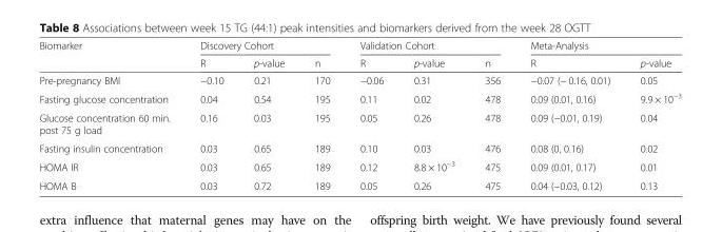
<table><thead><tr><td rowspan="2">Biomarker</td><td colspan="3">Discovery Cohort</td><td colspan="3">Validation Cohort</td><td colspan="2">Meta-Analysis</td></tr><tr><td>R</td><td>p-value</td><td>n</td><td>R</td><td>p-value</td><td>n</td><td>R</td><td>p-value</td></tr></thead><tbody><tr><td>Pre-pregnancy BMI</td><td>−0.10</td><td>0.21</td><td>170</td><td>−0.06</td><td>0.31</td><td>356</td><td>−0.07 (− 0.16, 0.01)</td><td>0.05</td></tr><tr><td>Fasting glucose concentration</td><td>0.04</td><td>0.54</td><td>195</td><td>0.11</td><td>0.02</td><td>478</td><td>0.09 (0.01, 0.16)</td><td>9.9 × 10<sup>−3</sup></td></tr><tr><td>Glucose concentration 60 min. post 75 g load</td><td>0.16</td><td>0.03</td><td>195</td><td>0.05</td><td>0.26</td><td>478</td><td>0.09 (−0.01, 0.19)</td><td>0.04</td></tr><tr><td>Fasting insulin concentration</td><td>0.03</td><td>0.65</td><td>189</td><td>0.10</td><td>0.03</td><td>476</td><td>0.08 (0, 0.16)</td><td>0.02</td></tr><tr><td>HOMA IR</td><td>0.03</td><td>0.65</td><td>189</td><td>0.12</td><td>8.8 × 10<sup>−3</sup></td><td>475</td><td>0.09 (0.01, 0.17)</td><td>0.01</td></tr><tr><td>HOMA B</td><td>0.03</td><td>0.72</td><td>189</td><td>0.05</td><td>0.26</td><td>475</td><td>0.04 (−0.03, 0.12)</td><td>0.13</td></tr></tbody></table>